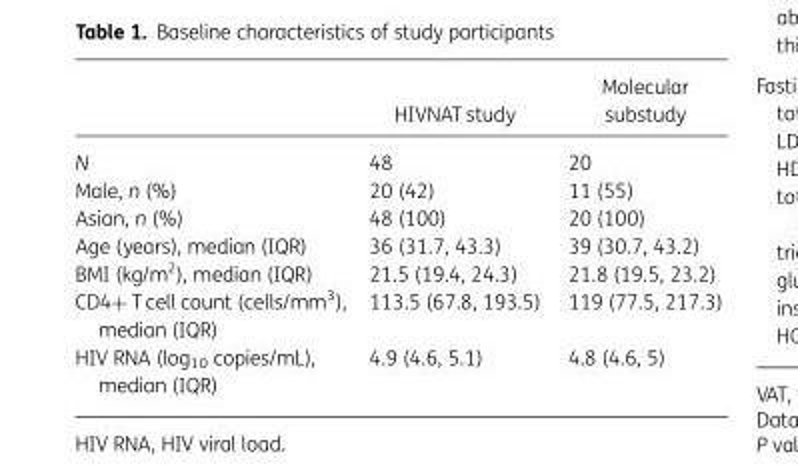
<table><thead><tr><td></td><td>HIVNAT study</td><td>Molecular substudy</td></tr></thead><tbody><tr><td>N</td><td>48</td><td>20</td></tr><tr><td>Male, n (%)</td><td>20 (42)</td><td>11 (55)</td></tr><tr><td>Asian, n (%)</td><td>48 (100)</td><td>20 (100)</td></tr><tr><td>Age (years), median (IQR)</td><td>36 (31.7, 43.3)</td><td>39 (30.7, 43.2)</td></tr><tr><td>BMI (kg/m<sup>2</sup>), median (IQR)</td><td>21.5 (19.4, 24.3)</td><td>21.8 (19.5, 23.2)</td></tr><tr><td>CD4+ T cell count (cells/mm<sup>3</sup>), median (IQR)</td><td>113.5 (67.8, 193.5)</td><td>119 (77.5, 217.3)</td></tr><tr><td>HIV RNA (log<sub>10</sub> copies/mL), median (IQR)</td><td>4.9 (4.6, 5.1)</td><td>4.8 (4.6, 5)</td></tr></tbody></table>